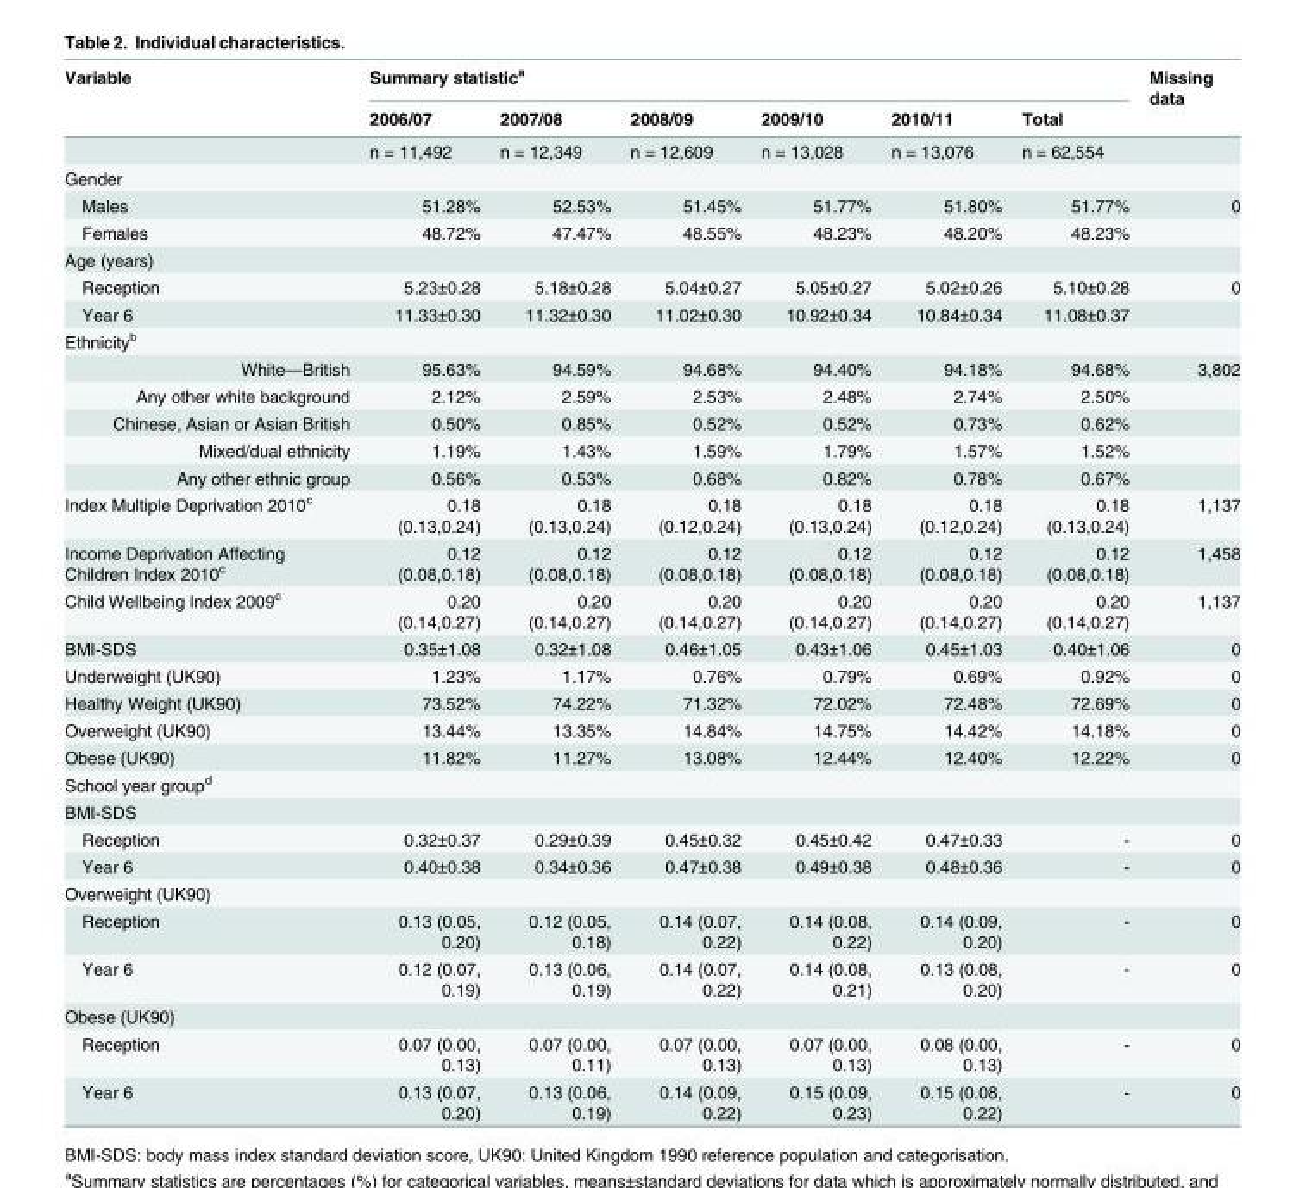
<table><thead><tr><td rowspan="2">Variable</td><td colspan="6">Summary statistic<sup>a</sup></td><td rowspan="2">Missing data</td></tr><tr><td>2006/07</td><td>2007/08</td><td>2008/09</td><td>2009/10</td><td>2010/11</td><td>Total</td></tr></thead><tbody><tr><td></td><td>n = 11,492</td><td>n = 12,349</td><td>n = 12,609</td><td>n = 13,028</td><td>n = 13,076</td><td>n = 62,554</td><td></td></tr><tr><td colspan="8">Gender</td></tr><tr><td>Males</td><td>51.28%</td><td>52.53%</td><td>51.45%</td><td>51.77%</td><td>51.80%</td><td>51.77%</td><td>0</td></tr><tr><td>Females</td><td>48.72%</td><td>47.47%</td><td>48.55%</td><td>48.23%</td><td>48.20%</td><td>48.23%</td><td></td></tr><tr><td colspan="8">Age (years)</td></tr><tr><td>Reception</td><td>5.23±0.28</td><td>5.18±0.28</td><td>5.04±0.27</td><td>5.05±0.27</td><td>5.02±0.26</td><td>5.10±0.28</td><td>0</td></tr><tr><td>Year 6</td><td>11.33±0.30</td><td>11.32±0.30</td><td>11.02±0.30</td><td>10.92±0.34</td><td>10.84±0.34</td><td>11.08±0.37</td><td></td></tr><tr><td colspan="8">Ethnicity<sup>b</sup></td></tr><tr><td>White—British</td><td>95.63%</td><td>94.59%</td><td>94.68%</td><td>94.40%</td><td>94.18%</td><td>94.68%</td><td>3,802</td></tr><tr><td>Any other white background</td><td>2.12%</td><td>2.59%</td><td>2.53%</td><td>2.48%</td><td>2.74%</td><td>2.50%</td><td></td></tr><tr><td>Chinese, Asian or Asian British</td><td>0.50%</td><td>0.85%</td><td>0.52%</td><td>0.52%</td><td>0.73%</td><td>0.62%</td><td></td></tr><tr><td>Mixed/dual ethnicity</td><td>1.19%</td><td>1.43%</td><td>1.59%</td><td>1.79%</td><td>1.57%</td><td>1.52%</td><td></td></tr><tr><td>Any other ethnic group</td><td>0.56%</td><td>0.53%</td><td>0.68%</td><td>0.82%</td><td>0.78%</td><td>0.67%</td><td></td></tr><tr><td>Index Multiple Deprivation 2010<sup>c</sup></td><td>0.18 (0.13,0.24)</td><td>0.18 (0.13,0.24)</td><td>0.18 (0.12,0.24)</td><td>0.18 (0.13,0.24)</td><td>0.18 (0.12,0.24)</td><td>0.18 (0.13,0.24)</td><td>1,137</td></tr><tr><td>Income Deprivation Affecting Children Index 2010<sup>c</sup></td><td>0.12 (0.08,0.18)</td><td>0.12 (0.08,0.18)</td><td>0.12 (0.08,0.18)</td><td>0.12 (0.08,0.18)</td><td>0.12 (0.08,0.18)</td><td>0.12 (0.08,0.18)</td><td>1,458</td></tr><tr><td>Child Wellbeing Index 2009<sup>c</sup></td><td>0.20 (0.14,0.27)</td><td>0.20 (0.14,0.27)</td><td>0.20 (0.14,0.27)</td><td>0.20 (0.14,0.27)</td><td>0.20 (0.14,0.27)</td><td>0.20 (0.14,0.27)</td><td>1,137</td></tr><tr><td>BMI-SDS</td><td>0.35±1.08</td><td>0.32±1.08</td><td>0.46±1.05</td><td>0.43±1.06</td><td>0.45±1.03</td><td>0.40±1.06</td><td>0</td></tr><tr><td>Underweight (UK90)</td><td>1.23%</td><td>1.17%</td><td>0.76%</td><td>0.79%</td><td>0.69%</td><td>0.92%</td><td>0</td></tr><tr><td>Healthy Weight (UK90)</td><td>73.52%</td><td>74.22%</td><td>71.32%</td><td>72.02%</td><td>72.48%</td><td>72.69%</td><td>0</td></tr><tr><td>Overweight (UK90)</td><td>13.44%</td><td>13.35%</td><td>14.84%</td><td>14.75%</td><td>14.42%</td><td>14.18%</td><td>0</td></tr><tr><td>Obese (UK90)</td><td>11.82%</td><td>11.27%</td><td>13.08%</td><td>12.44%</td><td>12.40%</td><td>12.22%</td><td>0</td></tr><tr><td colspan="8">School year group<sup>d</sup></td></tr><tr><td colspan="8">BMI-SDS</td></tr><tr><td>Reception</td><td>0.32±0.37</td><td>0.29±0.39</td><td>0.45±0.32</td><td>0.45±0.42</td><td>0.47±0.33</td><td>-</td><td>0</td></tr><tr><td>Year 6</td><td>0.40±0.38</td><td>0.34±0.36</td><td>0.47±0.38</td><td>0.49±0.38</td><td>0.48±0.36</td><td>-</td><td>0</td></tr><tr><td colspan="8">Overweight (UK90)</td></tr><tr><td>Reception</td><td>0.13 (0.05, 0.20)</td><td>0.12 (0.05, 0.18)</td><td>0.14 (0.07, 0.22)</td><td>0.14 (0.08, 0.22)</td><td>0.14 (0.09, 0.20)</td><td>-</td><td>0</td></tr><tr><td>Year 6</td><td>0.12 (0.07, 0.19)</td><td>0.13 (0.06, 0.19)</td><td>0.14 (0.07, 0.22)</td><td>0.14 (0.08, 0.21)</td><td>0.13 (0.08, 0.20)</td><td>-</td><td>0</td></tr><tr><td colspan="8">Obese (UK90)</td></tr><tr><td>Reception</td><td>0.07 (0.00, 0.13)</td><td>0.07 (0.00, 0.11)</td><td>0.07 (0.00, 0.13)</td><td>0.07 (0.00, 0.13)</td><td>0.08 (0.00, 0.13)</td><td>-</td><td>0</td></tr><tr><td>Year 6</td><td>0.13 (0.07, 0.20)</td><td>0.13 (0.06, 0.19)</td><td>0.14 (0.09, 0.22)</td><td>0.15 (0.09, 0.23)</td><td>0.15 (0.08, 0.22)</td><td>-</td><td>0</td></tr></tbody></table>